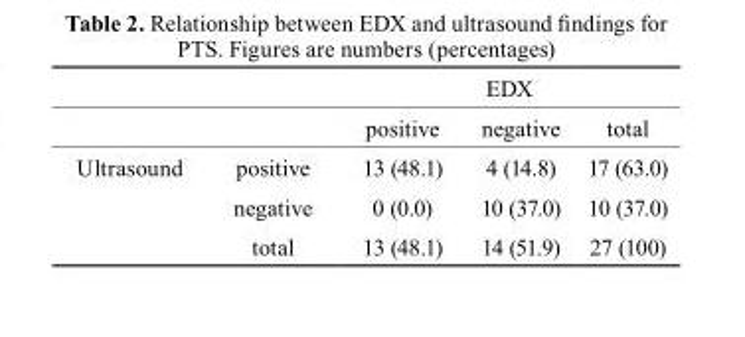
<table><thead><tr><td rowspan="2"></td><td rowspan="2"></td><td colspan="3">EDX</td></tr><tr><td>positive</td><td>negative</td><td>total</td></tr></thead><tbody><tr><td rowspan="3">Ultrasound</td><td>positive</td><td>13 (48.1)</td><td>4 (14.8)</td><td>17 (63.0)</td></tr><tr><td>negative</td><td>0 (0.0)</td><td>10 (37.0)</td><td>10 (37.0)</td></tr><tr><td>total</td><td>13 (48.1)</td><td>14 (51.9)</td><td>27 (100)</td></tr></tbody></table>